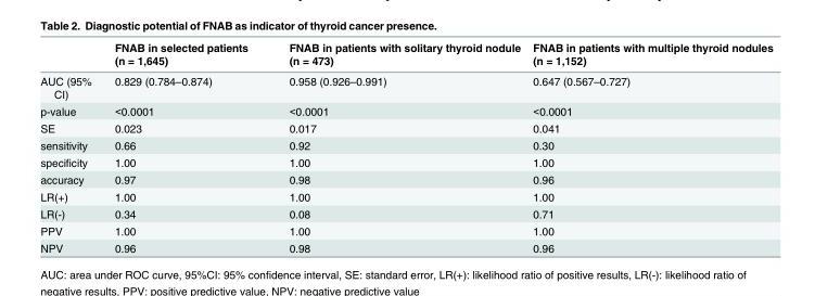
<table><thead><tr><td></td><td>FNAB in selected patients (n = 1,645)</td><td>FNAB in patients with solitary thyroid nodule (n = 473)</td><td>FNAB in patients with multiple thyroid nodules (n = 1,152)</td></tr></thead><tbody><tr><td>AUC (95% CI)</td><td>0.829 (0.784–0.874)</td><td>0.958 (0.926–0.991)</td><td>0.647 (0.567–0.727)</td></tr><tr><td>p-value</td><td>&lt;0.0001</td><td>&lt;0.0001</td><td>&lt;0.0001</td></tr><tr><td>SE</td><td>0.023</td><td>0.017</td><td>0.041</td></tr><tr><td>sensitivity</td><td>0.66</td><td>0.92</td><td>0.30</td></tr><tr><td>specificity</td><td>1.00</td><td>1.00</td><td>1.00</td></tr><tr><td>accuracy</td><td>0.97</td><td>0.98</td><td>0.96</td></tr><tr><td>LR(+)</td><td>1.00</td><td>1.00</td><td>1.00</td></tr><tr><td>LR(-)</td><td>0.34</td><td>0.08</td><td>0.71</td></tr><tr><td>PPV</td><td>1.00</td><td>1.00</td><td>1.00</td></tr><tr><td>NPV</td><td>0.96</td><td>0.98</td><td>0.96</td></tr></tbody></table>